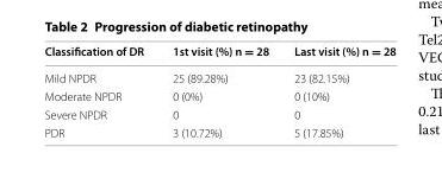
<table><thead><tr><td>Classification of DR</td><td>1st visit (%) n = 28</td><td>Last visit (%) n = 28</td></tr></thead><tbody><tr><td>Mild NPDR</td><td>25 (89.28%)</td><td>23 (82.15%)</td></tr><tr><td>Moderate NPDR</td><td>0 (0%)</td><td>0 (10%)</td></tr><tr><td>Severe NPDR</td><td>0</td><td>0</td></tr><tr><td>PDR</td><td>3 (10.72%)</td><td>5 (17.85%)</td></tr></tbody></table>